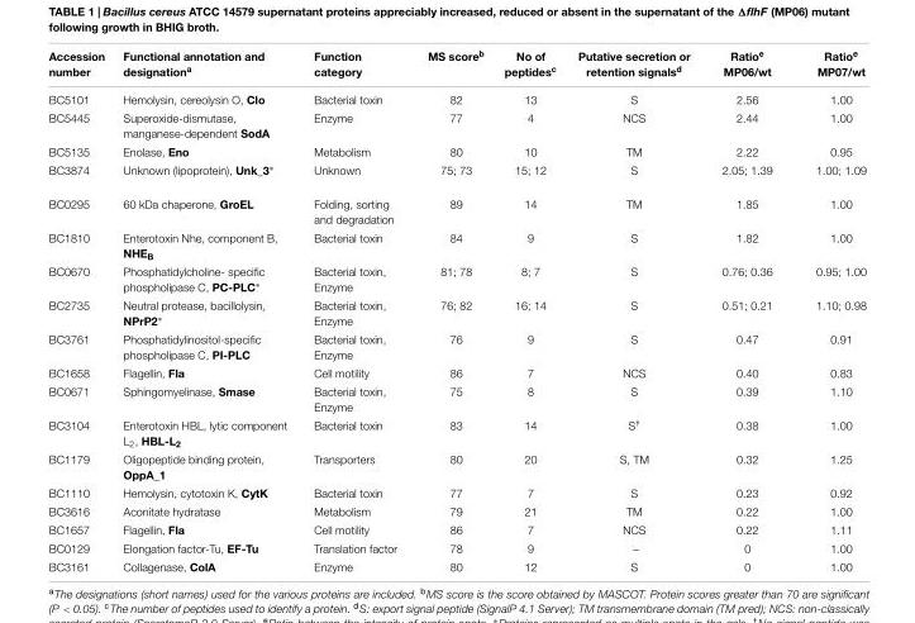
<table><thead><tr><td>Accession number</td><td>Functional annotation and designation<sup>a</sup></td><td>Function category</td><td>MS score<sup>b</sup></td><td>No of peptides<sup>c</sup></td><td>Putative secretion or retention signals<sup>d</sup></td><td>Ratio<sup>e</sup> MP06/wt</td><td>Ratio<sup>e</sup> MP07/wt</td></tr></thead><tbody><tr><td>BC5101</td><td>Hemolysin, cereolysin O, Clo</td><td>Bacterial toxin</td><td>82</td><td>13</td><td>S</td><td>2.56</td><td>1.00</td></tr><tr><td>BC5445</td><td>Superoxide-dismutase, manganese-dependent SodA</td><td>Enzyme</td><td>77</td><td>4</td><td>NCS</td><td>2.44</td><td>1.00</td></tr><tr><td>BC5135</td><td>Enolase, Eno</td><td>Metabolism</td><td>80</td><td>10</td><td>TM</td><td>2.22</td><td>0.95</td></tr><tr><td>BC3874</td><td>Unknown (lipoprotein), Unk_3∗</td><td>Unknown</td><td>75; 73</td><td>15; 12</td><td>S</td><td>2.05; 1.39</td><td>1.00; 1.09</td></tr><tr><td>BC0295</td><td>60 kDa chaperone, GroEL</td><td>Folding, sorting and degradation</td><td>89</td><td>14</td><td>TM</td><td>1.85</td><td>1.00</td></tr><tr><td>BC1810</td><td>Enterotoxin Nhe, component B, NHE<sub>B</sub></td><td>Bacterial toxin</td><td>84</td><td>9</td><td>S</td><td>1.82</td><td>1.00</td></tr><tr><td>BC0670</td><td>Phosphatidylcholine- specific phospholipase C, PC-PLC∗</td><td>Bacterial toxin, Enzyme</td><td>81; 78</td><td>8; 7</td><td>S</td><td>0.76; 0.36</td><td>0.95; 1.00</td></tr><tr><td>BC2735</td><td>Neutral protease, bacillolysin, NPrP2∗</td><td>Bacterial toxin, Enzyme</td><td>76; 82</td><td>16; 14</td><td>S</td><td>0.51; 0.21</td><td>1.10; 0.98</td></tr><tr><td>BC3761</td><td>Phosphatidylinositol-specific phospholipase C, PI-PLC</td><td>Bacterial toxin, Enzyme</td><td>76</td><td>9</td><td>S</td><td>0.47</td><td>0.91</td></tr><tr><td>BC1658</td><td>Flagellin, Fla</td><td>Cell motility</td><td>86</td><td>7</td><td>NCS</td><td>0.40</td><td>0.83</td></tr><tr><td>BC0671</td><td>Sphingomyelinase, Smase</td><td>Bacterial toxin, Enzyme</td><td>75</td><td>8</td><td>S</td><td>0.39</td><td>1.10</td></tr><tr><td>BC3104</td><td>Enterotoxin HBL, lytic component L<sub>2</sub>, HBL-L<sub>2</sub></td><td>Bacterial toxin</td><td>83</td><td>14</td><td>S<sup>†</sup></td><td>0.38</td><td>1.00</td></tr><tr><td>BC1179</td><td>Oligopeptide binding protein, OppA_1</td><td>Transporters</td><td>80</td><td>20</td><td>S, TM</td><td>0.32</td><td>1.25</td></tr><tr><td>BC1110</td><td>Hemolysin, cytotoxin K, CytK</td><td>Bacterial toxin</td><td>77</td><td>7</td><td>S</td><td>0.23</td><td>0.92</td></tr><tr><td>BC3616</td><td>Aconitate hydratase</td><td>Metabolism</td><td>79</td><td>21</td><td>TM</td><td>0.22</td><td>1.00</td></tr><tr><td>BC1657</td><td>Flagellin, Fla</td><td>Cell motility</td><td>86</td><td>7</td><td>NCS</td><td>0.22</td><td>1.11</td></tr><tr><td>BC0129</td><td>Elongation factor-Tu, EF-Tu</td><td>Translation factor</td><td>78</td><td>9</td><td>–</td><td>0</td><td>1.00</td></tr><tr><td>BC3161</td><td>Collagenase, ColA</td><td>Enzyme</td><td>80</td><td>12</td><td>S</td><td>0</td><td>1.00</td></tr></tbody></table>